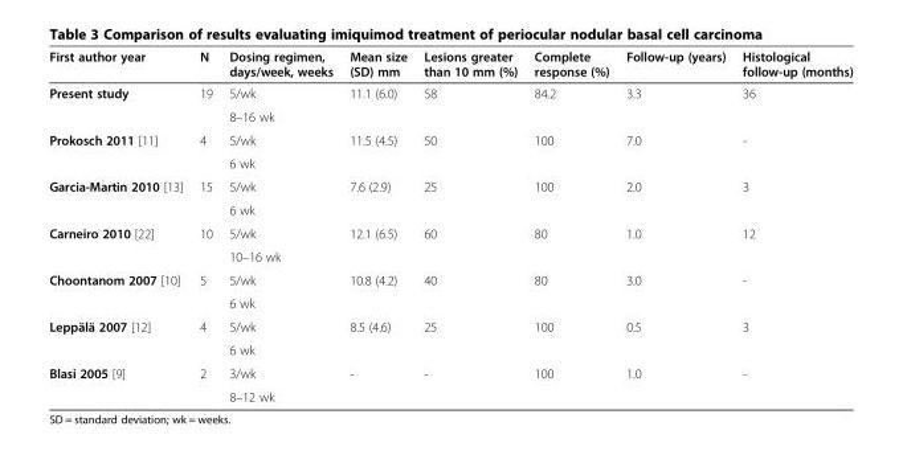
<table><thead><tr><td>First author year</td><td>N</td><td>Dosing regimen, days/week, weeks</td><td>Mean size (SD) mm</td><td>Lesions greater than 10 mm (%)</td><td>Complete response (%)</td><td>Follow-up (years)</td><td>Histological follow-up (months)</td></tr></thead><tbody><tr><td rowspan="2">Present study</td><td rowspan="2">19</td><td>5/wk</td><td rowspan="2">11.1 (6.0)</td><td rowspan="2">58</td><td rowspan="2">84.2</td><td rowspan="2">3.3</td><td rowspan="2">36</td></tr><tr><td>8–16 wk</td></tr><tr><td rowspan="2">Prokosch 2011 [11]</td><td rowspan="2">4</td><td>5/wk</td><td rowspan="2">11.5 (4.5)</td><td rowspan="2">50</td><td rowspan="2">100</td><td rowspan="2">7.0</td><td rowspan="2">-</td></tr><tr><td>6 wk</td></tr><tr><td rowspan="2">Garcia-Martin 2010 [13]</td><td rowspan="2">15</td><td>5/wk</td><td rowspan="2">7.6 (2.9)</td><td rowspan="2">25</td><td rowspan="2">100</td><td rowspan="2">2.0</td><td rowspan="2">3</td></tr><tr><td>6 wk</td></tr><tr><td rowspan="2">Carneiro 2010 [22]</td><td rowspan="2">10</td><td>5/wk</td><td rowspan="2">12.1 (6.5)</td><td rowspan="2">60</td><td rowspan="2">80</td><td rowspan="2">1.0</td><td rowspan="2">12</td></tr><tr><td>10–16 wk</td></tr><tr><td rowspan="2">Choontanom 2007 [10]</td><td rowspan="2">5</td><td>5/wk</td><td rowspan="2">10.8 (4.2)</td><td rowspan="2">40</td><td rowspan="2">80</td><td rowspan="2">3.0</td><td rowspan="2">-</td></tr><tr><td>6 wk</td></tr><tr><td rowspan="2">Leppälä 2007 [12]</td><td rowspan="2">4</td><td>5/wk</td><td rowspan="2">8.5 (4.6)</td><td rowspan="2">25</td><td rowspan="2">100</td><td rowspan="2">0.5</td><td rowspan="2">3</td></tr><tr><td>6 wk</td></tr><tr><td rowspan="2">Blasi 2005 [9]</td><td rowspan="2">2</td><td>3/wk</td><td rowspan="2">-</td><td rowspan="2">-</td><td rowspan="2">100</td><td rowspan="2">1.0</td><td rowspan="2">-</td></tr><tr><td>8–12 wk</td></tr></tbody></table>